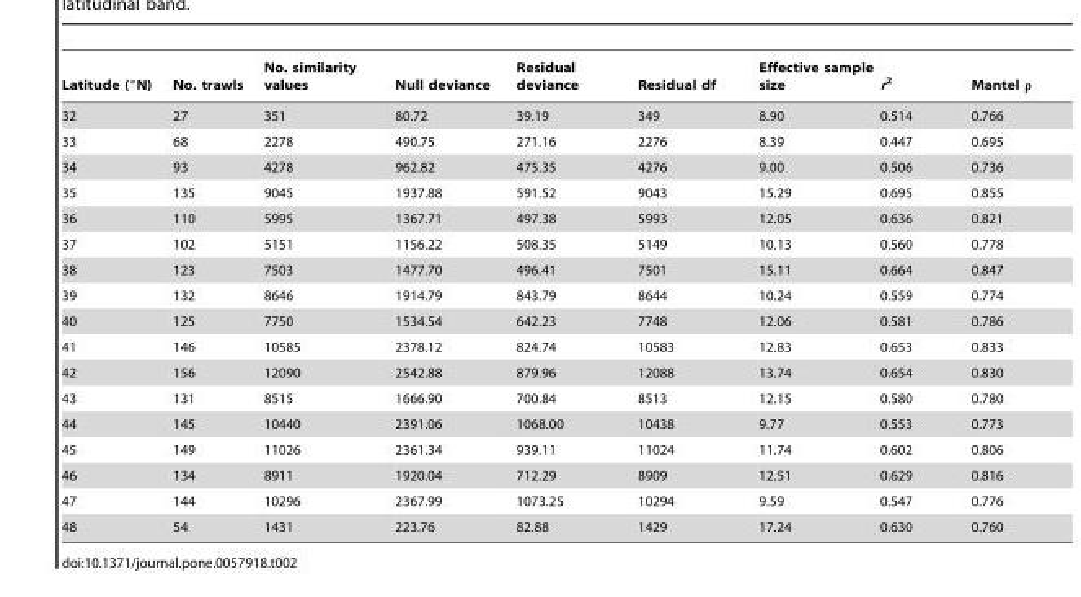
<table><thead><tr><td>Latitude (°N)</td><td>No. trawls</td><td>No. similarity values</td><td>Null deviance</td><td>Residual deviance</td><td>Residual df</td><td>Effective sample size</td><td>r<sup>2</sup></td><td>Mantel</td></tr></thead><tbody><tr><td>32</td><td>27</td><td>351</td><td>80.72</td><td>39.19</td><td>349</td><td>8.90</td><td>0.514</td><td>0.766</td></tr><tr><td>33</td><td>68</td><td>2278</td><td>490.75</td><td>271.16</td><td>2276</td><td>8.39</td><td>0.447</td><td>0.695</td></tr><tr><td>34</td><td>93</td><td>4278</td><td>962.82</td><td>475.35</td><td>4276</td><td>9.00</td><td>0.506</td><td>0.736</td></tr><tr><td>35</td><td>135</td><td>9045</td><td>1937.88</td><td>591.52</td><td>9043</td><td>15.29</td><td>0.695</td><td>0.855</td></tr><tr><td>36</td><td>110</td><td>5995</td><td>1367.71</td><td>497.38</td><td>5993</td><td>12.05</td><td>0.636</td><td>0.821</td></tr><tr><td>37</td><td>102</td><td>5151</td><td>1156.22</td><td>508.35</td><td>5149</td><td>10.13</td><td>0.560</td><td>0.778</td></tr><tr><td>38</td><td>123</td><td>7503</td><td>1477.70</td><td>496.41</td><td>7501</td><td>15.11</td><td>0.664</td><td>0.847</td></tr><tr><td>39</td><td>132</td><td>8646</td><td>1914.79</td><td>843.79</td><td>8644</td><td>10.24</td><td>0.559</td><td>0.774</td></tr><tr><td>40</td><td>125</td><td>7750</td><td>1534.54</td><td>642.23</td><td>7748</td><td>12.06</td><td>0.581</td><td>0.786</td></tr><tr><td>41</td><td>146</td><td>10585</td><td>2378.12</td><td>824.74</td><td>10583</td><td>12.83</td><td>0.653</td><td>0.833</td></tr><tr><td>42</td><td>156</td><td>12090</td><td>2542.88</td><td>879.96</td><td>12088</td><td>13.74</td><td>0.654</td><td>0.830</td></tr><tr><td>43</td><td>131</td><td>8515</td><td>1666.90</td><td>700.84</td><td>8513</td><td>12.15</td><td>0.580</td><td>0.780</td></tr><tr><td>44</td><td>145</td><td>10440</td><td>2391.06</td><td>1068.00</td><td>10438</td><td>9.77</td><td>0.553</td><td>0.773</td></tr><tr><td>45</td><td>149</td><td>11026</td><td>2361.34</td><td>939.11</td><td>11024</td><td>11.74</td><td>0.602</td><td>0.806</td></tr><tr><td>46</td><td>134</td><td>8911</td><td>1920.04</td><td>712.29</td><td>8909</td><td>12.51</td><td>0.629</td><td>0.816</td></tr><tr><td>47</td><td>144</td><td>10296</td><td>2367.99</td><td>1073.25</td><td>10294</td><td>9.59</td><td>0.547</td><td>0.776</td></tr><tr><td>48</td><td>54</td><td>1431</td><td>223.76</td><td>82.88</td><td>1429</td><td>17.24</td><td>0.630</td><td>0.760</td></tr></tbody></table>